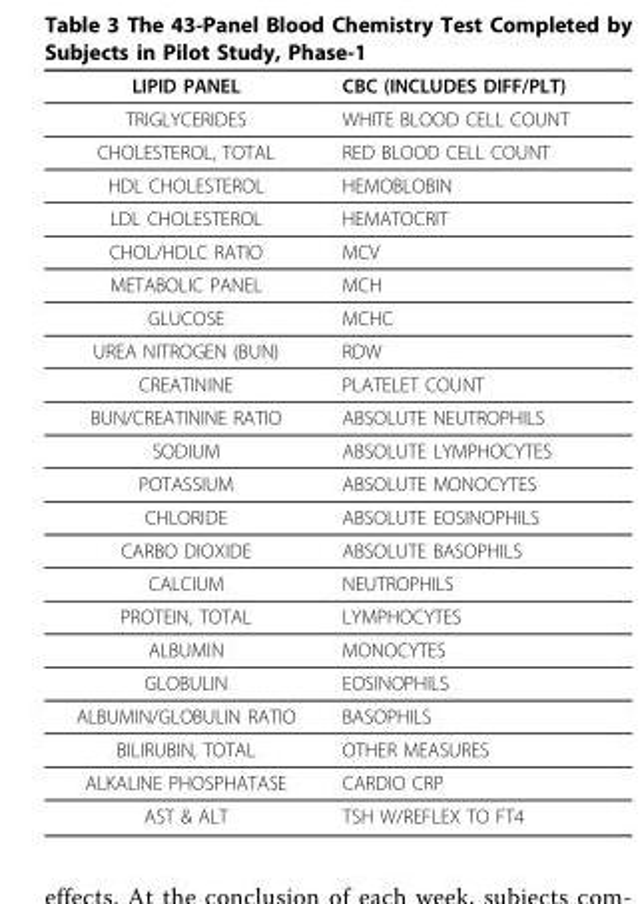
<table><thead><tr><td>LIPID PANEL</td><td>CBC (INCLUDES DIFF/PLT)</td></tr></thead><tbody><tr><td>TRIGLYCERIDES</td><td>WHITE BLOOD CELL COUNT</td></tr><tr><td>CHOLESTEROL, TOTAL</td><td>RED BLOOD CELL COUNT</td></tr><tr><td>HDL CHOLESTEROL</td><td>HEMOBLOBIN</td></tr><tr><td>LDL CHOLESTEROL</td><td>HEMATOCRIT</td></tr><tr><td>CHOL/HDLC RATIO</td><td>MCV</td></tr><tr><td>METABOLIC PANEL</td><td>MCH</td></tr><tr><td>GLUCOSE</td><td>MCHC</td></tr><tr><td>UREA NITROGEN (BUN)</td><td>RDW</td></tr><tr><td>CREATININE</td><td>PLATELET COUNT</td></tr><tr><td>BUN/CREATININE RATIO</td><td>ABSOLUTE NEUTROPHILS</td></tr><tr><td>SODIUM</td><td>ABSOLUTE LYMPHOCYTES</td></tr><tr><td>POTASSIUM</td><td>ABSOLUTE MONOCYTES</td></tr><tr><td>CHLORIDE</td><td>ABSOLUTE EOSINOPHILS</td></tr><tr><td>CARBO DIOXIDE</td><td>ABSOLUTE BASOPHILS</td></tr><tr><td>CALCIUM</td><td>NEUTROPHILS</td></tr><tr><td>PROTEIN, TOTAL</td><td>LYMPHOCYTES</td></tr><tr><td>ALBUMIN</td><td>MONOCYTES</td></tr><tr><td>GLOBULIN</td><td>EOSINOPHILS</td></tr><tr><td>ALBUMIN/GLOBULIN RATIO</td><td>BASOPHILS</td></tr><tr><td>BILIRUBIN, TOTAL</td><td>OTHER MEASURES</td></tr><tr><td>ALKALINE PHOSPHATASE</td><td>CARDIO CRP</td></tr><tr><td>AST &amp; ALT</td><td>TSH W/REFLEX TO FT4</td></tr></tbody></table>